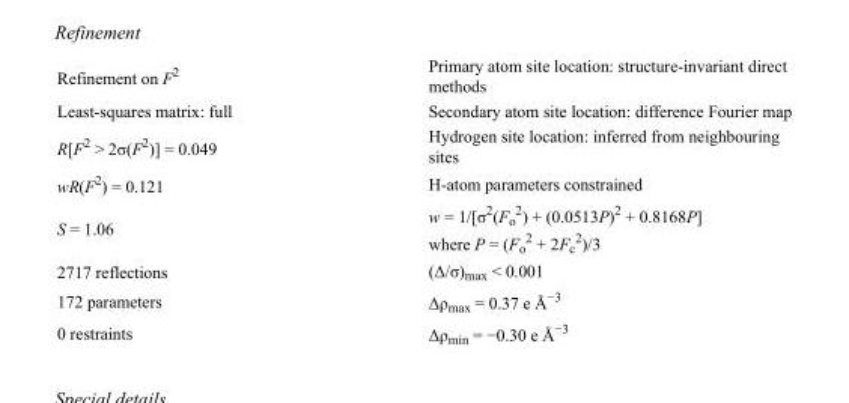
<table><tbody><tr><td>Refinement on F<sup>2</sup></td><td>Primary atom site location: structure-invariant direct methods</td></tr><tr><td>Least-squares matrix: full</td><td>Secondary atom site location: difference Fourier map</td></tr><tr><td>R[F<sup>2</sup> &gt; 2σ(F<sup>2</sup>)] = 0.049</td><td>Hydrogen site location: inferred from neighbouring sites</td></tr><tr><td>wR(F<sup>2</sup>) = 0.121</td><td>H-atom parameters constrained</td></tr><tr><td>S = 1.06</td><td>w = 1/[σ<sup>2</sup>(F<sub>o</sub> <sup>2</sup>) + (0.0513P)<sup>2</sup> + 0.8168P] where P = (F<sub>o</sub> <sup>2</sup> + 2F<sub>c</sub> <sup>2</sup>)/3</td></tr><tr><td>2717 reflections</td><td>(Δ/σ)<sub>max</sub> &lt; 0.001</td></tr><tr><td>172 parameters</td><td>Δρ<sub>max</sub> = 0.37 e Å<sup>−3</sup></td></tr><tr><td>0 restraints</td><td>Δρ<sub>min</sub> = −0.30 e Å<sup>−3</sup></td></tr></tbody></table>